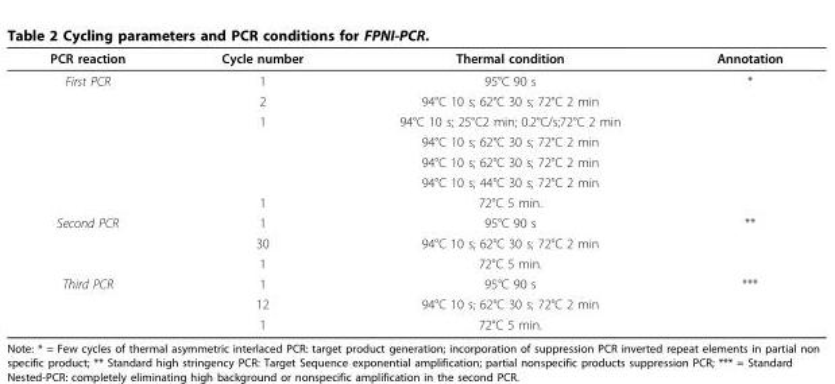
<table><thead><tr><td>PCR reaction</td><td>Cycle number</td><td>Thermal condition</td><td>Annotation</td></tr></thead><tbody><tr><td rowspan="7">First PCR</td><td>1</td><td>95°C 90 s</td><td>*</td></tr><tr><td>2</td><td>94°C 10 s; 62°C 30 s; 72°C 2 min</td><td></td></tr><tr><td>1</td><td>94°C 10 s; 25°C2 min; 0.2°C/s;72°C 2 min</td><td></td></tr><tr><td></td><td>94°C 10 s; 62°C 30 s; 72°C 2 min</td><td></td></tr><tr><td></td><td>94°C 10 s; 62°C 30 s; 72°C 2 min</td><td></td></tr><tr><td></td><td>94°C 10 s; 44°C 30 s; 72°C 2 min</td><td></td></tr><tr><td>1</td><td>72°C 5 min.</td><td></td></tr><tr><td rowspan="3">Second PCR</td><td>1</td><td>95°C 90 s</td><td>**</td></tr><tr><td>30</td><td>94°C 10 s; 62°C 30 s; 72°C 2 min</td><td></td></tr><tr><td>1</td><td>72°C 5 min.</td><td></td></tr><tr><td rowspan="3">Third PCR</td><td>1</td><td>95°C 90 s</td><td>***</td></tr><tr><td>12</td><td>94°C 10 s; 62°C 30 s; 72°C 2 min</td><td></td></tr><tr><td>1</td><td>72°C 5 min.</td><td></td></tr></tbody></table>